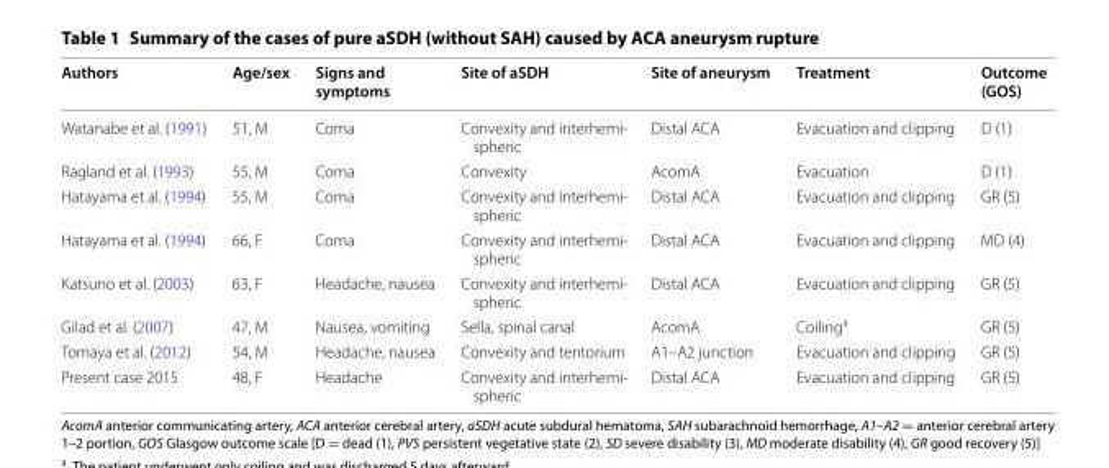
<table><thead><tr><td>Authors</td><td>Age/sex</td><td>Signs and symptoms</td><td>Site of aSDH</td><td>Site of aneurysm</td><td>Treatment</td><td>Outcome (GOS)</td></tr></thead><tbody><tr><td>Watanabe et al. (1991)</td><td>51, M</td><td>Coma</td><td>Convexity and interhemi‑ spheric</td><td>Distal ACA</td><td>Evacuation and clipping</td><td>D (1)</td></tr><tr><td>Ragland et al. (1993)</td><td>55, M</td><td>Coma</td><td>Convexity</td><td>AcomA</td><td>Evacuation</td><td>D (1)</td></tr><tr><td>Hatayama et al. (1994)</td><td>55, M</td><td>Coma</td><td>Convexity and interhemi‑ spheric</td><td>Distal ACA</td><td>Evacuation and clipping</td><td>GR (5)</td></tr><tr><td>Hatayama et al. (1994)</td><td>66, F</td><td>Coma</td><td>Convexity and interhemi‑ spheric</td><td>Distal ACA</td><td>Evacuation and clipping</td><td>MD (4)</td></tr><tr><td>Katsuno et al. (2003)</td><td>63, F</td><td>Headache, nausea</td><td>Convexity and interhemi‑ spheric</td><td>Distal ACA</td><td>Evacuation and clipping</td><td>GR (5)</td></tr><tr><td>Gilad et al. (2007)</td><td>47, M</td><td>Nausea, vomiting</td><td>Sella, spinal canal</td><td>AcomA</td><td>Coiling<sup>a</sup></td><td>GR (5)</td></tr><tr><td>Tomaya et al. (2012)</td><td>54, M</td><td>Headache, nausea</td><td>Convexity and tentorium</td><td>A1–A2 junction</td><td>Evacuation and clipping</td><td>GR (5)</td></tr><tr><td>Present case 2015</td><td>48, F</td><td>Headache</td><td>Convexity and interhemi‑ spheric</td><td>Distal ACA</td><td>Evacuation and clipping</td><td>GR (5)</td></tr></tbody></table>